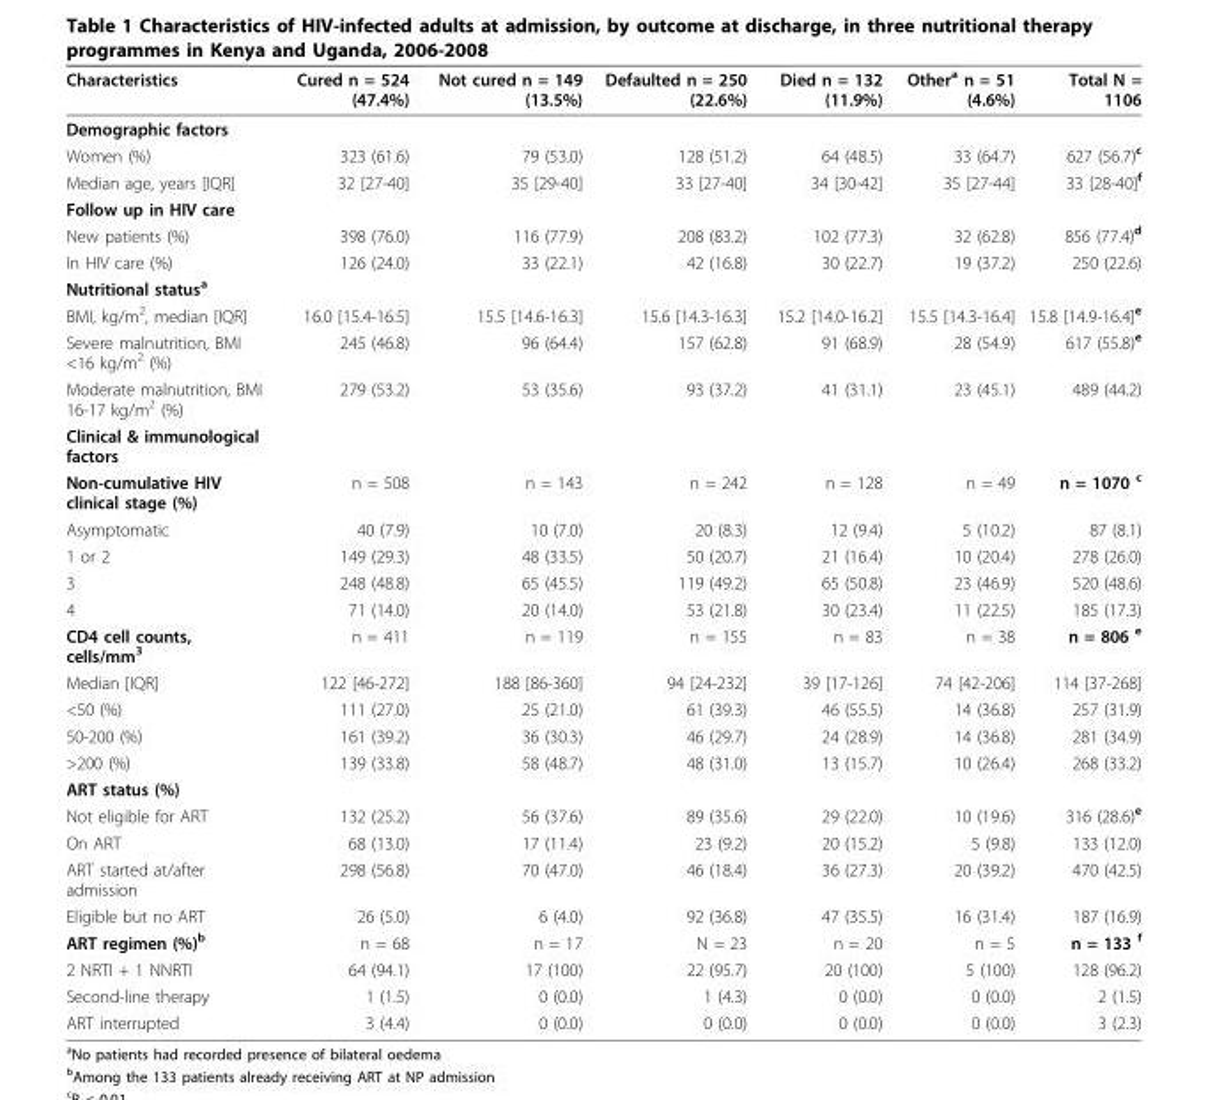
<table><thead><tr><td>Characteristics</td><td>Cured n = 524 (47.4%)</td><td>Not cured n = 149 (13.5%)</td><td>Defaulted n = 250 (22.6%)</td><td>Died n = 132 (11.9%)</td><td>Other<sup>a</sup> n = 51 (4.6%)</td><td>Total N = 1106</td></tr></thead><tbody><tr><td colspan="7">Demographic factors</td></tr><tr><td>Women (%)</td><td>323 (61.6)</td><td>79 (53.0)</td><td>128 (51.2)</td><td>64 (48.5)</td><td>33 (64.7)</td><td>627 (56.7)<sup>c</sup></td></tr><tr><td>Median age, years [IQR]</td><td>32 [27-40]</td><td>35 [29-40]</td><td>33 [27-40]</td><td>34 [30-42]</td><td>35 [27-44]</td><td>33 [28-40]<sup>f</sup></td></tr><tr><td colspan="7">Follow up in HIV care</td></tr><tr><td>New patients (%)</td><td>398 (76.0)</td><td>116 (77.9)</td><td>208 (83.2)</td><td>102 (77.3)</td><td>32 (62.8)</td><td>856 (77.4)<sup>d</sup></td></tr><tr><td>In HIV care (%)</td><td>126 (24.0)</td><td>33 (22.1)</td><td>42 (16.8)</td><td>30 (22.7)</td><td>19 (37.2)</td><td>250 (22.6)</td></tr><tr><td colspan="7">Nutritional status<sup>a</sup></td></tr><tr><td>BMI, kg/m<sup>2</sup>, median [IQR]</td><td>16.0 [15.4-16.5]</td><td>15.5 [14.6-16.3]</td><td>15.6 [14.3-16.3]</td><td>15.2 [14.0-16.2]</td><td>15.5 [14.3-16.4]</td><td>15.8 [14.9-16.4]<sup>e</sup></td></tr><tr><td>Severe malnutrition, BMI &lt;16 kg/m<sup>2</sup> (%)</td><td>245 (46.8)</td><td>96 (64.4)</td><td>157 (62.8)</td><td>91 (68.9)</td><td>28 (54.9)</td><td>617 (55.8)<sup>e</sup></td></tr><tr><td>Moderate malnutrition, BMI 16-17 kg/m<sup>2</sup> (%)</td><td>279 (53.2)</td><td>53 (35.6)</td><td>93 (37.2)</td><td>41 (31.1)</td><td>23 (45.1)</td><td>489 (44.2)</td></tr><tr><td colspan="7">Clinical &amp; immunological factors</td></tr><tr><td>Non-cumulative HIV clinical stage (%)</td><td>n = 508</td><td>n = 143</td><td>n = 242</td><td>n = 128</td><td>n = 49</td><td>n = 1070 <sup>c</sup></td></tr><tr><td>Asymptomatic</td><td>40 (7.9)</td><td>10 (7.0)</td><td>20 (8.3)</td><td>12 (9.4)</td><td>5 (10.2)</td><td>87 (8.1)</td></tr><tr><td>1 or 2</td><td>149 (29.3)</td><td>48 (33.5)</td><td>50 (20.7)</td><td>21 (16.4)</td><td>10 (20.4)</td><td>278 (26.0)</td></tr><tr><td>3</td><td>248 (48.8)</td><td>65 (45.5)</td><td>119 (49.2)</td><td>65 (50.8)</td><td>23 (46.9)</td><td>520 (48.6)</td></tr><tr><td>4</td><td>71 (14.0)</td><td>20 (14.0)</td><td>53 (21.8)</td><td>30 (23.4)</td><td>11 (22.5)</td><td>185 (17.3)</td></tr><tr><td>CD4 cell counts, cells/mm<sup>3</sup></td><td>n = 411</td><td>n = 119</td><td>n = 155</td><td>n = 83</td><td>n = 38</td><td>n = 806 <sup>e</sup></td></tr><tr><td>Median [IQR]</td><td>122 [46-272]</td><td>188 [86-360]</td><td>94 [24-232]</td><td>39 [17-126]</td><td>74 [42-206]</td><td>114 [37-268]</td></tr><tr><td>&lt;50 (%)</td><td>111 (27.0)</td><td>25 (21.0)</td><td>61 (39.3)</td><td>46 (55.5)</td><td>14 (36.8)</td><td>257 (31.9)</td></tr><tr><td>50-200 (%)</td><td>161 (39.2)</td><td>36 (30.3)</td><td>46 (29.7)</td><td>24 (28.9)</td><td>14 (36.8)</td><td>281 (34.9)</td></tr><tr><td>&gt;200 (%)</td><td>139 (33.8)</td><td>58 (48.7)</td><td>48 (31.0)</td><td>13 (15.7)</td><td>10 (26.4)</td><td>268 (33.2)</td></tr><tr><td colspan="7">ART status (%)</td></tr><tr><td>Not eligible for ART</td><td>132 (25.2)</td><td>56 (37.6)</td><td>89 (35.6)</td><td>29 (22.0)</td><td>10 (19.6)</td><td>316 (28.6)<sup>e</sup></td></tr><tr><td>On ART</td><td>68 (13.0)</td><td>17 (11.4)</td><td>23 (9.2)</td><td>20 (15.2)</td><td>5 (9.8)</td><td>133 (12.0)</td></tr><tr><td>ART started at/after admission</td><td>298 (56.8)</td><td>70 (47.0)</td><td>46 (18.4)</td><td>36 (27.3)</td><td>20 (39.2)</td><td>470 (42.5)</td></tr><tr><td>Eligible but no ART</td><td>26 (5.0)</td><td>6 (4.0)</td><td>92 (36.8)</td><td>47 (35.5)</td><td>16 (31.4)</td><td>187 (16.9)</td></tr><tr><td>ART regimen (%)<sup>b</sup></td><td>n = 68</td><td>n = 17</td><td>N = 23</td><td>n = 20</td><td>n = 5</td><td>n = 133 <sup>f</sup></td></tr><tr><td>2 NRTI + 1 NNRTI</td><td>64 (94.1)</td><td>17 (100)</td><td>22 (95.7)</td><td>20 (100)</td><td>5 (100)</td><td>128 (96.2)</td></tr><tr><td>Second-line therapy</td><td>1 (1.5)</td><td>0 (0.0)</td><td>1 (4.3)</td><td>0 (0.0)</td><td>0 (0.0)</td><td>2 (1.5)</td></tr><tr><td>ART interrupted</td><td>3 (4.4)</td><td>0 (0.0)</td><td>0 (0.0)</td><td>0 (0.0)</td><td>0 (0.0)</td><td>3 (2.3)</td></tr></tbody></table>